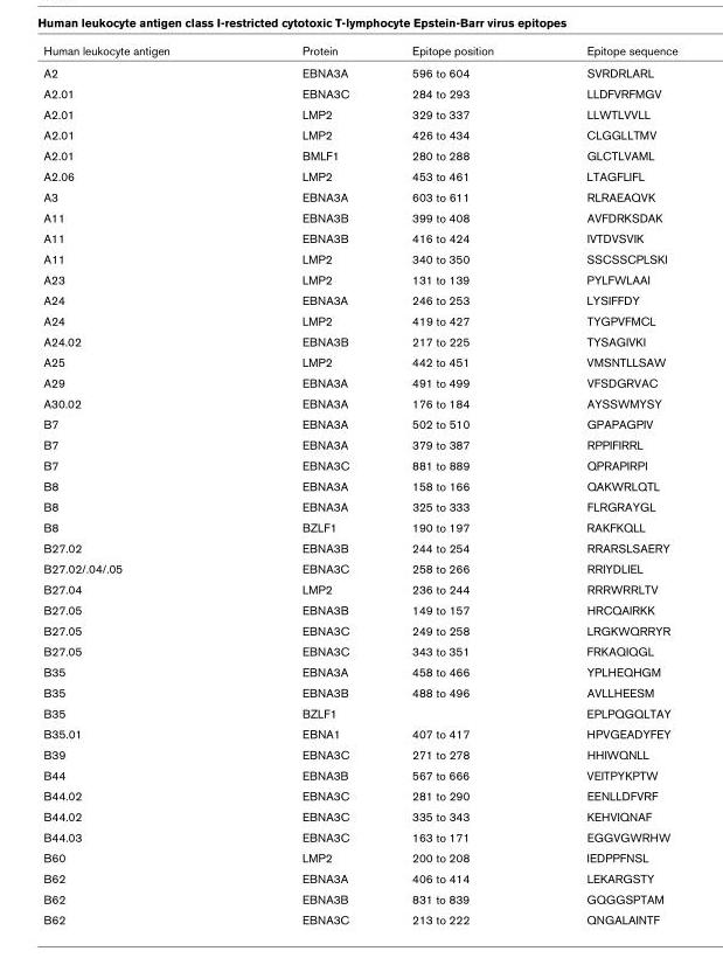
<table><thead><tr><td>Human leukocyte antigen</td><td>Protein</td><td>Epitope position</td><td>Epitope sequence</td></tr></thead><tbody><tr><td>A2</td><td>EBNA3A</td><td>596 to 604</td><td>SVRDRLARL</td></tr><tr><td>A2.01</td><td>EBNA3C</td><td>284 to 293</td><td>LLDFVRFMGV</td></tr><tr><td>A2.01</td><td>LMP2</td><td>329 to 337</td><td>LLWTLVVLL</td></tr><tr><td>A2.01</td><td>LMP2</td><td>426 to 434</td><td>CLGGLLTMV</td></tr><tr><td>A2.01</td><td>BMLF1</td><td>280 to 288</td><td>GLCTLVAML</td></tr><tr><td>A2.06</td><td>LMP2</td><td>453 to 461</td><td>LTAGFLIFL</td></tr><tr><td>A3</td><td>EBNA3A</td><td>603 to 611</td><td>RLRAEAQVK</td></tr><tr><td>A11</td><td>EBNA3B</td><td>399 to 408</td><td>AVFDRKSDAK</td></tr><tr><td>A11</td><td>EBNA3B</td><td>416 to 424</td><td>IVTDVSVIK</td></tr><tr><td>A11</td><td>LMP2</td><td>340 to 350</td><td>SSCSSCPLSKI</td></tr><tr><td>A23</td><td>LMP2</td><td>131 to 139</td><td>PYLFWLAAI</td></tr><tr><td>A24</td><td>EBNA3A</td><td>246 to 253</td><td>LYSIFFDY</td></tr><tr><td>A24</td><td>LMP2</td><td>419 to 427</td><td>TYGPVFMCL</td></tr><tr><td>A24.02</td><td>EBNA3B</td><td>217 to 225</td><td>TYSAGIVKI</td></tr><tr><td>A25</td><td>LMP2</td><td>442 to 451</td><td>VMSNTLLSAW</td></tr><tr><td>A29</td><td>EBNA3A</td><td>491 to 499</td><td>VFSDGRVAC</td></tr><tr><td>A30.02</td><td>EBNA3A</td><td>176 to 184</td><td>AYSSWMYSY</td></tr><tr><td>B7</td><td>EBNA3A</td><td>502 to 510</td><td>GPAPAGPIV</td></tr><tr><td>B7</td><td>EBNA3A</td><td>379 to 387</td><td>RPPIFIRRL</td></tr><tr><td>B7</td><td>EBNA3C</td><td>881 to 889</td><td>QPRAPIRPI</td></tr><tr><td>B8</td><td>EBNA3A</td><td>158 to 166</td><td>QAKWRLQTL</td></tr><tr><td>B8</td><td>EBNA3A</td><td>325 to 333</td><td>FLRGRAYGL</td></tr><tr><td>B8</td><td>BZLF1</td><td>190 to 197</td><td>RAKFKQLL</td></tr><tr><td>B27.02</td><td>EBNA3B</td><td>244 to 254</td><td>RRARSLSAERY</td></tr><tr><td>B27.02/.04/.05</td><td>EBNA3C</td><td>258 to 266</td><td>RRIYDLIEL</td></tr><tr><td>B27.04</td><td>LMP2</td><td>236 to 244</td><td>RRRWRRLTV</td></tr><tr><td>B27.05</td><td>EBNA3B</td><td>149 to 157</td><td>HRCQAIRKK</td></tr><tr><td>B27.05</td><td>EBNA3C</td><td>249 to 258</td><td>LRGKWQRRYR</td></tr><tr><td>B27.05</td><td>EBNA3C</td><td>343 to 351</td><td>FRKAQIQGL</td></tr><tr><td>B35</td><td>EBNA3A</td><td>458 to 466</td><td>YPLHEQHGM</td></tr><tr><td>B35</td><td>EBNA3B</td><td>488 to 496</td><td>AVLLHEESM</td></tr><tr><td>B35</td><td>BZLF1</td><td></td><td>EPLPQGQLTAY</td></tr><tr><td>B35.01</td><td>EBNA1</td><td>407 to 417</td><td>HPVGEADYFEY</td></tr><tr><td>B39</td><td>EBNA3C</td><td>271 to 278</td><td>HHIWQNLL</td></tr><tr><td>B44</td><td>EBNA3B</td><td>567 to 666</td><td>VEITPYKPTW</td></tr><tr><td>B44.02</td><td>EBNA3C</td><td>281 to 290</td><td>EENLLDFVRF</td></tr><tr><td>B44.02</td><td>EBNA3C</td><td>335 to 343</td><td>KEHVIQNAF</td></tr><tr><td>B44.03</td><td>EBNA3C</td><td>163 to 171</td><td>EGGVGWRHW</td></tr><tr><td>B60</td><td>LMP2</td><td>200 to 208</td><td>IEDPPFNSL</td></tr><tr><td>B62</td><td>EBNA3A</td><td>406 to 414</td><td>LEKARGSTY</td></tr><tr><td>B62</td><td>EBNA3B</td><td>831 to 839</td><td>GQGGSPTAM</td></tr><tr><td>B62</td><td>EBNA3C</td><td>213 to 222</td><td>QNGALAINTF</td></tr></tbody></table>